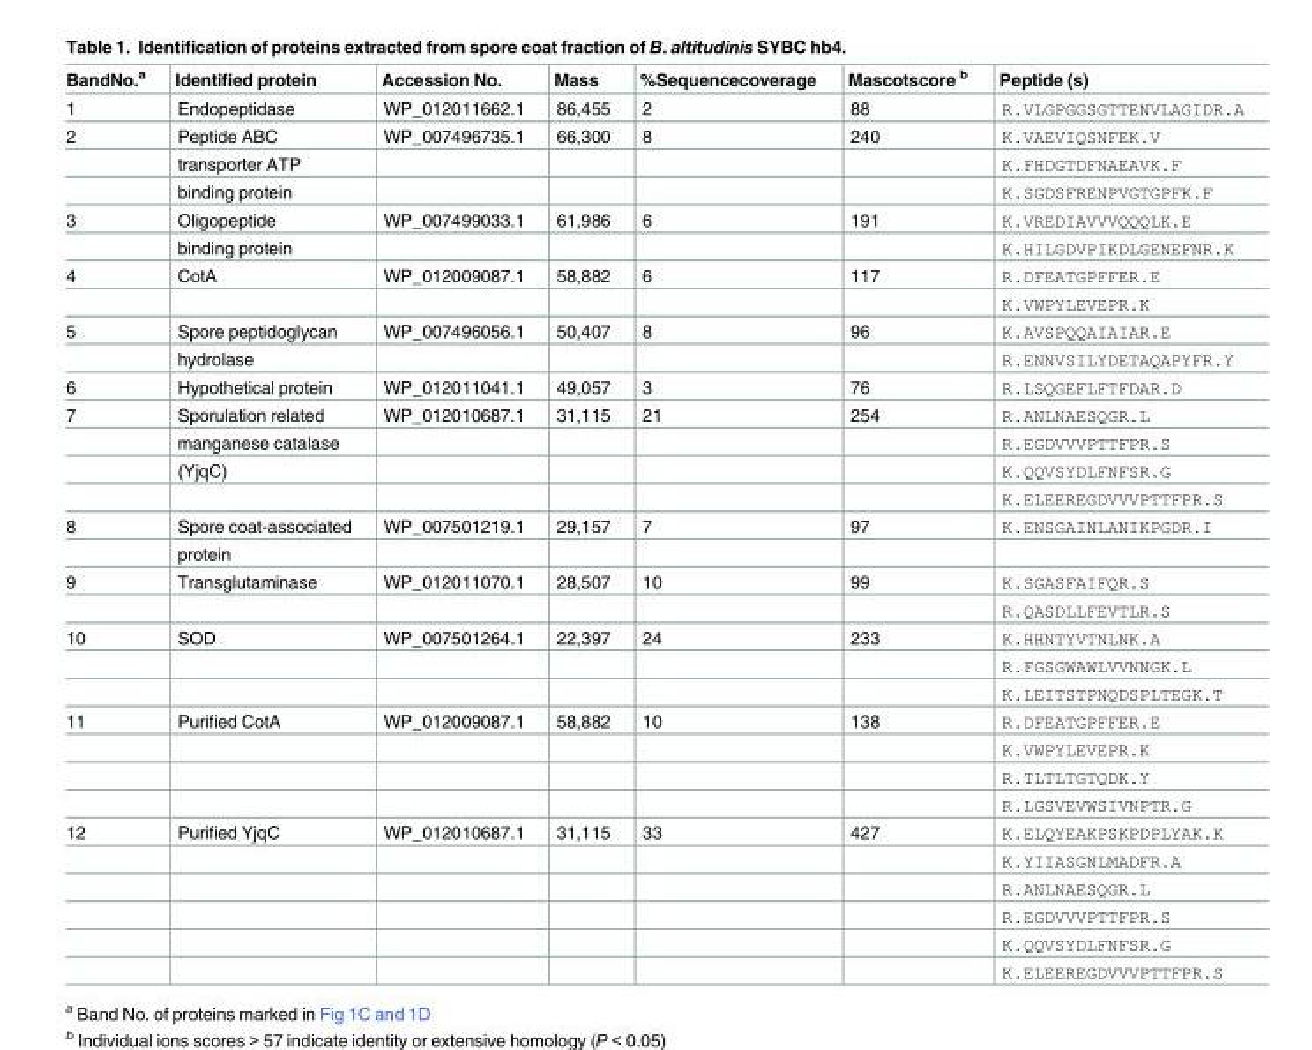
<table><thead><tr><td>BandNo.<sup>a</sup></td><td>Identified protein</td><td>Accession No.</td><td>Mass</td><td>%Sequencecoverage</td><td>Mascotscore <sup>b</sup></td><td>Peptide (s)</td></tr></thead><tbody><tr><td>1</td><td>Endopeptidase</td><td>WP_012011662.1</td><td>86,455</td><td>2</td><td>88</td><td>R.VLGPGGSGTTENVLAGIDR.A</td></tr><tr><td rowspan="3">2</td><td>Peptide ABC</td><td>WP_007496735.1</td><td>66,300</td><td>8</td><td>240</td><td>K.VAEVIQSNFEK.V</td></tr><tr><td>transporter ATP</td><td></td><td></td><td></td><td></td><td>K.FHDGTDFNAEAVK.F</td></tr><tr><td>binding protein</td><td></td><td></td><td></td><td></td><td>K.SGDSFRENPVGTGPFK.F</td></tr><tr><td rowspan="2">3</td><td>Oligopeptide</td><td>WP_007499033.1</td><td>61,986</td><td>6</td><td>191</td><td>K.VREDIAVVVQQQLK.E</td></tr><tr><td>binding protein</td><td></td><td></td><td></td><td></td><td>K.HILGDVPIKDLGENEFNR.K</td></tr><tr><td rowspan="2">4</td><td>CotA</td><td>WP_012009087.1</td><td>58,882</td><td>6</td><td>117</td><td>R.DFEATGPFFER.E</td></tr><tr><td></td><td></td><td></td><td></td><td></td><td>K.VWPYLEVEPR.K</td></tr><tr><td rowspan="2">5</td><td>Spore peptidoglycan</td><td>WP_007496056.1</td><td>50,407</td><td>8</td><td>96</td><td>K.AVSPQQAIAIAR.E</td></tr><tr><td>hydrolase</td><td></td><td></td><td></td><td></td><td>R.ENNVSILYDETAQAPYFR.Y</td></tr><tr><td>6</td><td>Hypothetical protein</td><td>WP_012011041.1</td><td>49,057</td><td>3</td><td>76</td><td>R.LSQGEFLFTFDAR.D</td></tr><tr><td rowspan="4">7</td><td>Sporulation related</td><td>WP_012010687.1</td><td>31,115</td><td>21</td><td>254</td><td>R.ANLNAESQGR.L</td></tr><tr><td>manganese catalase</td><td></td><td></td><td></td><td></td><td>R.EGDVVVPTTFPR.S</td></tr><tr><td>(YjqC)</td><td></td><td></td><td></td><td></td><td>K.QQVSYDLFNFSR.G</td></tr><tr><td></td><td></td><td></td><td></td><td></td><td>K.ELEEREGDVVVPTTFPR.S</td></tr><tr><td rowspan="2">8</td><td>Spore coat-associated</td><td>WP_007501219.1</td><td>29,157</td><td>7</td><td>97</td><td>K.ENSGAINLANIKPGDR.I</td></tr><tr><td>protein</td><td></td><td></td><td></td><td></td><td></td></tr><tr><td rowspan="2">9</td><td>Transglutaminase</td><td>WP_012011070.1</td><td>28,507</td><td>10</td><td>99</td><td>K.SGASFAIFQR.S</td></tr><tr><td></td><td></td><td></td><td></td><td></td><td>R.QASDLLFEVTLR.S</td></tr><tr><td rowspan="3">10</td><td>SOD</td><td>WP_007501264.1</td><td>22,397</td><td>24</td><td>233</td><td>K.HHNTYVTNLNK.A</td></tr><tr><td></td><td></td><td></td><td></td><td></td><td>R.FGSGWAWLVVNNGK.L</td></tr><tr><td></td><td></td><td></td><td></td><td></td><td>K.LEITSTPNQDSPLTEGK.T</td></tr><tr><td rowspan="4">11</td><td>Purified CotA</td><td>WP_012009087.1</td><td>58,882</td><td>10</td><td>138</td><td>R.DFEATGPFFER.E</td></tr><tr><td></td><td></td><td></td><td></td><td></td><td>K.VWPYLEVEPR.K</td></tr><tr><td></td><td></td><td></td><td></td><td></td><td>R.TLTLTGTQDK.Y</td></tr><tr><td></td><td></td><td></td><td></td><td></td><td>R.LGSVEVWSIVNPTR.G</td></tr><tr><td rowspan="6">12</td><td>Purified YjqC</td><td>WP_012010687.1</td><td>31,115</td><td>33</td><td>427</td><td>K.ELQYEAKPSKPDPLYAK.K</td></tr><tr><td></td><td></td><td></td><td></td><td></td><td>K.YIIASGNLMADFR.A</td></tr><tr><td></td><td></td><td></td><td></td><td></td><td>R.ANLNAESQGR.L</td></tr><tr><td></td><td></td><td></td><td></td><td></td><td>R.EGDVVVPTTFPR.S</td></tr><tr><td></td><td></td><td></td><td></td><td></td><td>K.QQVSYDLFNFSR.G</td></tr><tr><td></td><td></td><td></td><td></td><td></td><td>K.ELEEREGDVVVPTTFPR.S</td></tr></tbody></table>